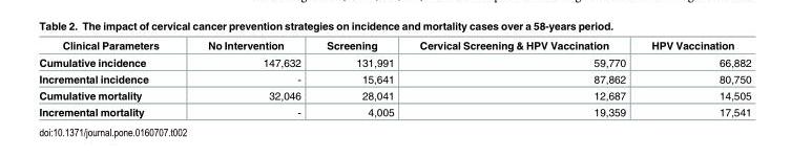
<table><thead><tr><td>Clinical Parameters</td><td>No Intervention</td><td>Screening</td><td>Cervical Screening &amp; HPV Vaccination</td><td>HPV Vaccination</td></tr></thead><tbody><tr><td>Cumulative incidence</td><td>147,632</td><td>131,991</td><td>59,770</td><td>66,882</td></tr><tr><td>Incremental incidence</td><td>-</td><td>15,641</td><td>87,862</td><td>80,750</td></tr><tr><td>Cumulative mortality</td><td>32,046</td><td>28,041</td><td>12,687</td><td>14,505</td></tr><tr><td>Incremental mortality</td><td>-</td><td>4,005</td><td>19,359</td><td>17,541</td></tr></tbody></table>